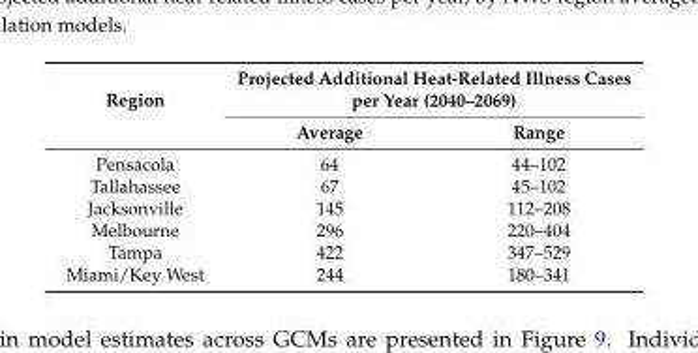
<table><thead><tr><td rowspan="2">Region</td><td colspan="2">Projected Additional Heat-Related Illness Cases per Year (2040–2069)</td></tr><tr><td>Average</td><td>Range</td></tr></thead><tbody><tr><td>Pensacola</td><td>64</td><td>44–102</td></tr><tr><td>Tallahassee</td><td>67</td><td>45–102</td></tr><tr><td>Jacksonville</td><td>145</td><td>112–208</td></tr><tr><td>Melbourne</td><td>296</td><td>220–404</td></tr><tr><td>Tampa</td><td>422</td><td>347–529</td></tr><tr><td>Miami/Key West</td><td>244</td><td>180–341</td></tr></tbody></table>